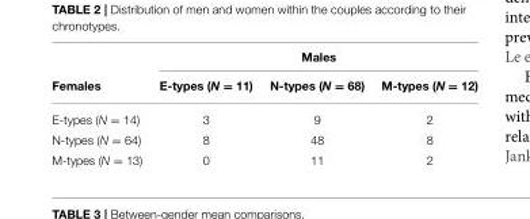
<table><thead><tr><td rowspan="2">Females</td><td colspan="3">Males</td></tr><tr><td>E-types (N = 11)</td><td>N-types (N = 68)</td><td>M-types (N = 12)</td></tr></thead><tbody><tr><td>E-types (N = 14)</td><td>3</td><td>9</td><td>2</td></tr><tr><td>N-types (N = 64)</td><td>8</td><td>48</td><td>8</td></tr><tr><td>M-types (N = 13)</td><td>0</td><td>11</td><td>2</td></tr></tbody></table>